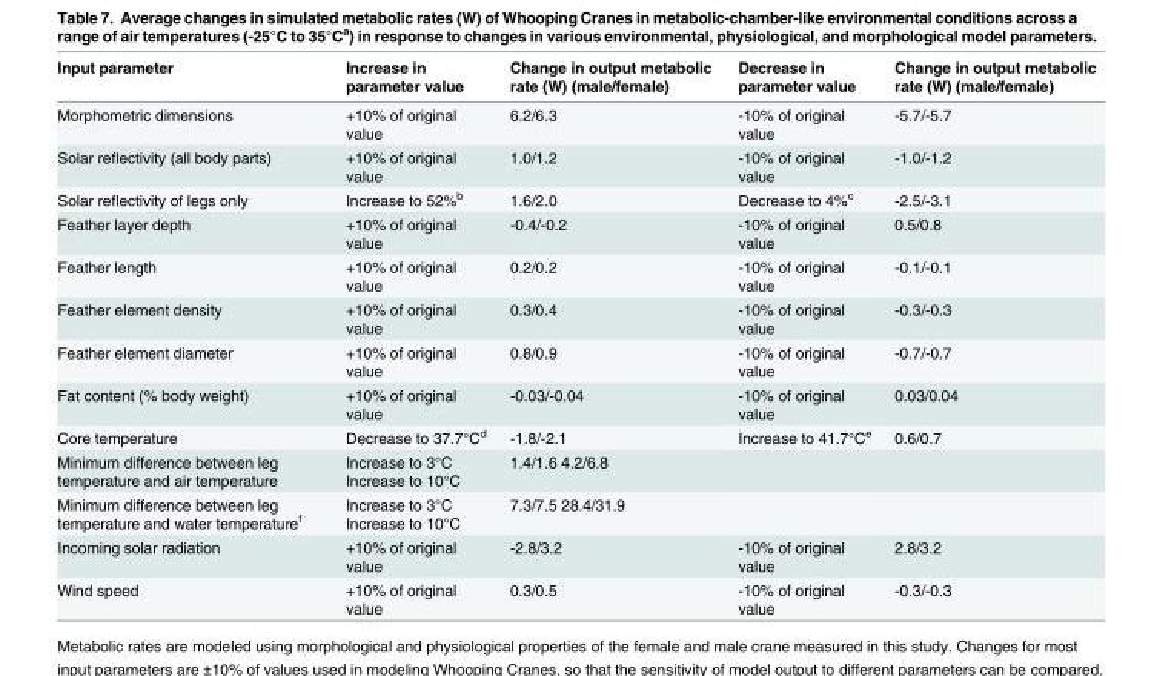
<table><thead><tr><td>Input parameter</td><td>Increase in parameter value</td><td>Change in output metabolic rate (W) (male/female)</td><td>Decrease in parameter value</td><td>Change in output metabolic rate (W) (male/female)</td></tr></thead><tbody><tr><td>Morphometric dimensions</td><td>+10% of original value</td><td>6.2/6.3</td><td>-10% of original value</td><td>-5.7/-5.7</td></tr><tr><td>Solar reflectivity (all body parts)</td><td>+10% of original value</td><td>1.0/1.2</td><td>-10% of original value</td><td>-1.0/-1.2</td></tr><tr><td>Solar reflectivity of legs only</td><td>Increase to 52%<sup>b</sup></td><td>1.6/2.0</td><td>Decrease to 4%<sup>c</sup></td><td>-2.5/-3.1</td></tr><tr><td>Feather layer depth</td><td>+10% of original value</td><td>-0.4/-0.2</td><td>-10% of original value</td><td>0.5/0.8</td></tr><tr><td>Feather length</td><td>+10% of original value</td><td>0.2/0.2</td><td>-10% of original value</td><td>-0.1/-0.1</td></tr><tr><td>Feather element density</td><td>+10% of original value</td><td>0.3/0.4</td><td>-10% of original value</td><td>-0.3/-0.3</td></tr><tr><td>Feather element diameter</td><td>+10% of original value</td><td>0.8/0.9</td><td>-10% of original value</td><td>-0.7/-0.7</td></tr><tr><td>Fat content (% body weight)</td><td>+10% of original value</td><td>-0.03/-0.04</td><td>-10% of original value</td><td>0.03/0.04</td></tr><tr><td>Core temperature</td><td>Decrease to 37.7°C<sup>d</sup></td><td>-1.8/-2.1</td><td>Increase to 41.7°C<sup>e</sup></td><td>0.6/0.7</td></tr><tr><td>Minimum difference between leg temperature and air temperature</td><td>Increase to 3°C Increase to 10°C</td><td>1.4/1.6 4.2/6.8</td><td></td><td></td></tr><tr><td>Minimum difference between leg temperature and water temperature<sup>f</sup></td><td>Increase to 3°C Increase to 10°C</td><td>7.3/7.5 28.4/31.9</td><td></td><td></td></tr><tr><td>Incoming solar radiation</td><td>+10% of original value</td><td>-2.8/3.2</td><td>-10% of original value</td><td>2.8/3.2</td></tr><tr><td>Wind speed</td><td>+10% of original value</td><td>0.3/0.5</td><td>-10% of original value</td><td>-0.3/-0.3</td></tr></tbody></table>